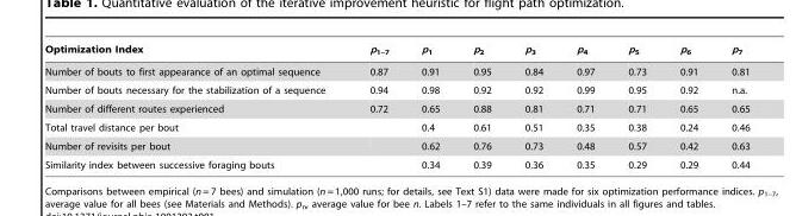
<table><thead><tr><td>Optimization Index</td><td>p<sub>1–7</sub></td><td>p<sub>1</sub></td><td>p<sub>2</sub></td><td>p<sub>3</sub></td><td>p<sub>4</sub></td><td>p<sub>5</sub></td><td>p<sub>6</sub></td><td>p<sub>7</sub></td></tr></thead><tbody><tr><td>Number of bouts to first appearance of an optimal sequence</td><td>0.87</td><td>0.91</td><td>0.95</td><td>0.84</td><td>0.97</td><td>0.73</td><td>0.91</td><td>0.81</td></tr><tr><td>Number of bouts necessary for the stabilization of a sequence</td><td>0.94</td><td>0.98</td><td>0.92</td><td>0.92</td><td>0.99</td><td>0.95</td><td>0.92</td><td>n.a.</td></tr><tr><td>Number of different routes experienced</td><td>0.72</td><td>0.65</td><td>0.88</td><td>0.81</td><td>0.71</td><td>0.71</td><td>0.65</td><td>0.65</td></tr><tr><td>Total travel distance per bout</td><td></td><td>0.4</td><td>0.61</td><td>0.51</td><td>0.35</td><td>0.38</td><td>0.24</td><td>0.46</td></tr><tr><td>Number of revisits per bout</td><td></td><td>0.62</td><td>0.76</td><td>0.73</td><td>0.48</td><td>0.57</td><td>0.42</td><td>0.63</td></tr><tr><td>Similarity index between successive foraging bouts</td><td></td><td>0.34</td><td>0.39</td><td>0.36</td><td>0.35</td><td>0.29</td><td>0.29</td><td>0.44</td></tr></tbody></table>